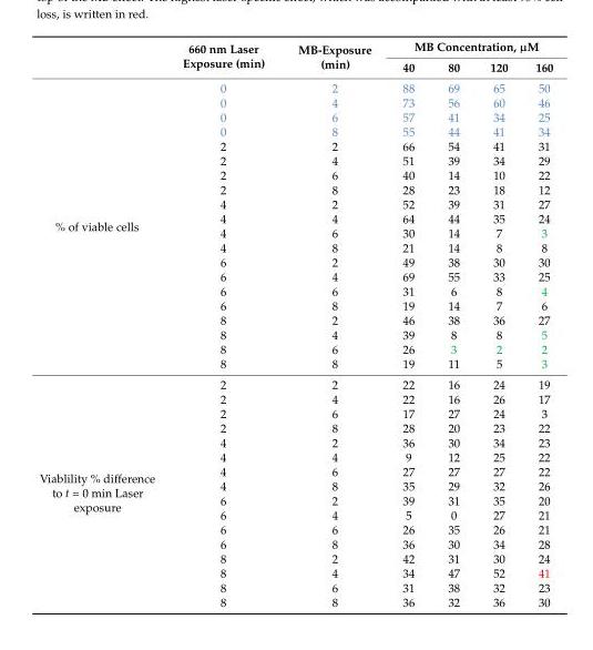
<table><thead><tr><td rowspan="2"></td><td rowspan="2">660 nm Laser Exposure (min)</td><td rowspan="2">MB-Exposure (min)</td><td colspan="4">MB Concentration, µM</td></tr><tr><td>40</td><td>80</td><td>120</td><td>160</td></tr></thead><tbody><tr><td rowspan="20">% of viable cells</td><td>0</td><td>2</td><td>88</td><td>69</td><td>65</td><td>50</td></tr><tr><td>0</td><td>4</td><td>73</td><td>56</td><td>60</td><td>46</td></tr><tr><td>0</td><td>6</td><td>57</td><td>41</td><td>34</td><td>25</td></tr><tr><td>0</td><td>8</td><td>55</td><td>44</td><td>41</td><td>34</td></tr><tr><td>2</td><td>2</td><td>66</td><td>54</td><td>41</td><td>31</td></tr><tr><td>2</td><td>4</td><td>51</td><td>39</td><td>34</td><td>29</td></tr><tr><td>2</td><td>6</td><td>40</td><td>14</td><td>10</td><td>22</td></tr><tr><td>2</td><td>8</td><td>28</td><td>23</td><td>18</td><td>12</td></tr><tr><td>4</td><td>2</td><td>52</td><td>39</td><td>31</td><td>27</td></tr><tr><td>4</td><td>4</td><td>64</td><td>44</td><td>35</td><td>24</td></tr><tr><td>4</td><td>6</td><td>30</td><td>14</td><td>7</td><td>3</td></tr><tr><td>4</td><td>8</td><td>21</td><td>14</td><td>8</td><td>8</td></tr><tr><td>6</td><td>2</td><td>49</td><td>38</td><td>30</td><td>30</td></tr><tr><td>6</td><td>4</td><td>69</td><td>55</td><td>33</td><td>25</td></tr><tr><td>6</td><td>6</td><td>31</td><td>6</td><td>8</td><td>4</td></tr><tr><td>6</td><td>8</td><td>19</td><td>14</td><td>7</td><td>6</td></tr><tr><td>8</td><td>2</td><td>46</td><td>38</td><td>36</td><td>27</td></tr><tr><td>8</td><td>4</td><td>39</td><td>8</td><td>8</td><td>5</td></tr><tr><td>8</td><td>6</td><td>26</td><td>3</td><td>2</td><td>2</td></tr><tr><td>8</td><td>8</td><td>19</td><td>11</td><td>5</td><td>3</td></tr><tr><td rowspan="16">Viablility % difference to t = 0 min Laser exposure</td><td>2</td><td>2</td><td>22</td><td>16</td><td>24</td><td>19</td></tr><tr><td>2</td><td>4</td><td>22</td><td>16</td><td>26</td><td>17</td></tr><tr><td>2</td><td>6</td><td>17</td><td>27</td><td>24</td><td>3</td></tr><tr><td>2</td><td>8</td><td>28</td><td>20</td><td>23</td><td>22</td></tr><tr><td>4</td><td>2</td><td>36</td><td>30</td><td>34</td><td>23</td></tr><tr><td>4</td><td>4</td><td>9</td><td>12</td><td>25</td><td>22</td></tr><tr><td>4</td><td>6</td><td>27</td><td>27</td><td>27</td><td>22</td></tr><tr><td>4</td><td>8</td><td>35</td><td>29</td><td>32</td><td>26</td></tr><tr><td>6</td><td>2</td><td>39</td><td>31</td><td>35</td><td>20</td></tr><tr><td>6</td><td>4</td><td>5</td><td>0</td><td>27</td><td>21</td></tr><tr><td>6</td><td>6</td><td>26</td><td>35</td><td>26</td><td>21</td></tr><tr><td>6</td><td>8</td><td>36</td><td>30</td><td>34</td><td>28</td></tr><tr><td>8</td><td>2</td><td>42</td><td>31</td><td>30</td><td>24</td></tr><tr><td>8</td><td>4</td><td>34</td><td>47</td><td>52</td><td>41</td></tr><tr><td>8</td><td>6</td><td>31</td><td>38</td><td>32</td><td>23</td></tr><tr><td>8</td><td>8</td><td>36</td><td>32</td><td>36</td><td>30</td></tr></tbody></table>